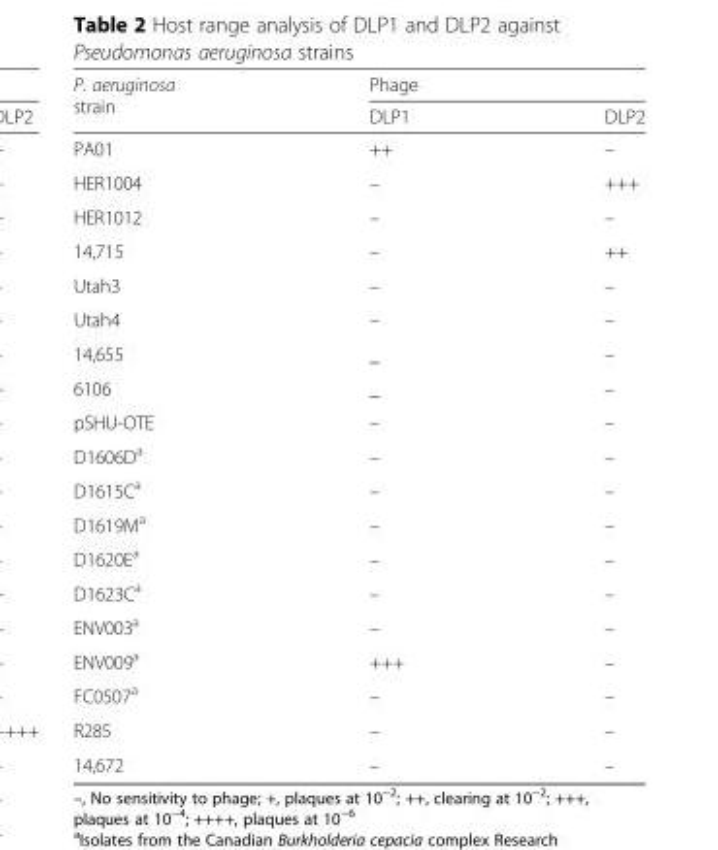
<table><thead><tr><td rowspan="2">P. aeruginosa strain</td><td colspan="2">Phage</td></tr><tr><td>DLP1</td><td>DLP2</td></tr></thead><tbody><tr><td>PA01</td><td>++</td><td>–</td></tr><tr><td>HER1004</td><td>–</td><td>+++</td></tr><tr><td>HER1012</td><td>–</td><td>–</td></tr><tr><td>14,715</td><td>–</td><td>++</td></tr><tr><td>Utah3</td><td>–</td><td>–</td></tr><tr><td>Utah4</td><td>–</td><td>–</td></tr><tr><td>14,655</td><td>_</td><td>–</td></tr><tr><td>6106</td><td>_</td><td>–</td></tr><tr><td>pSHU-OTE</td><td>–</td><td>–</td></tr><tr><td>D1606D<sup>a</sup></td><td>–</td><td>–</td></tr><tr><td>D1615C<sup>a</sup></td><td>–</td><td>–</td></tr><tr><td>D1619M<sup>a</sup></td><td>–</td><td>–</td></tr><tr><td>D1620E<sup>a</sup></td><td>–</td><td>–</td></tr><tr><td>D1623C<sup>a</sup></td><td>–</td><td>–</td></tr><tr><td>ENV003<sup>a</sup></td><td>–</td><td>–</td></tr><tr><td>ENV009<sup>a</sup></td><td>+++</td><td>–</td></tr><tr><td>FC0507<sup>a</sup></td><td>–</td><td>–</td></tr><tr><td>R285</td><td>–</td><td>–</td></tr><tr><td>14,672</td><td>–</td><td>–</td></tr></tbody></table>